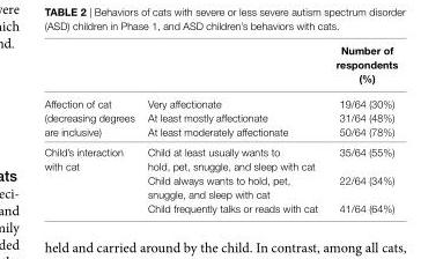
<table><thead><tr><td></td><td></td><td>number of respondents (%)</td></tr></thead><tbody><tr><td rowspan="3">Affection of cat (decreasing degrees are inclusive)</td><td>Very affectionate</td><td>19/64 (30%)</td></tr><tr><td>At least mostly affectionate</td><td>31/64 (48%)</td></tr><tr><td>At least moderately affectionate</td><td>50/64 (78%)</td></tr><tr><td rowspan="3">Child’s interaction with cat</td><td>Child at least usually wants to hold, pet, snuggle, and sleep with cat</td><td>35/64 (55%)</td></tr><tr><td>Child always wants to hold, pet, snuggle, and sleep with cat</td><td>22/64 (34%)</td></tr><tr><td>Child frequently talks or reads with cat</td><td>41/64 (64%)</td></tr></tbody></table>